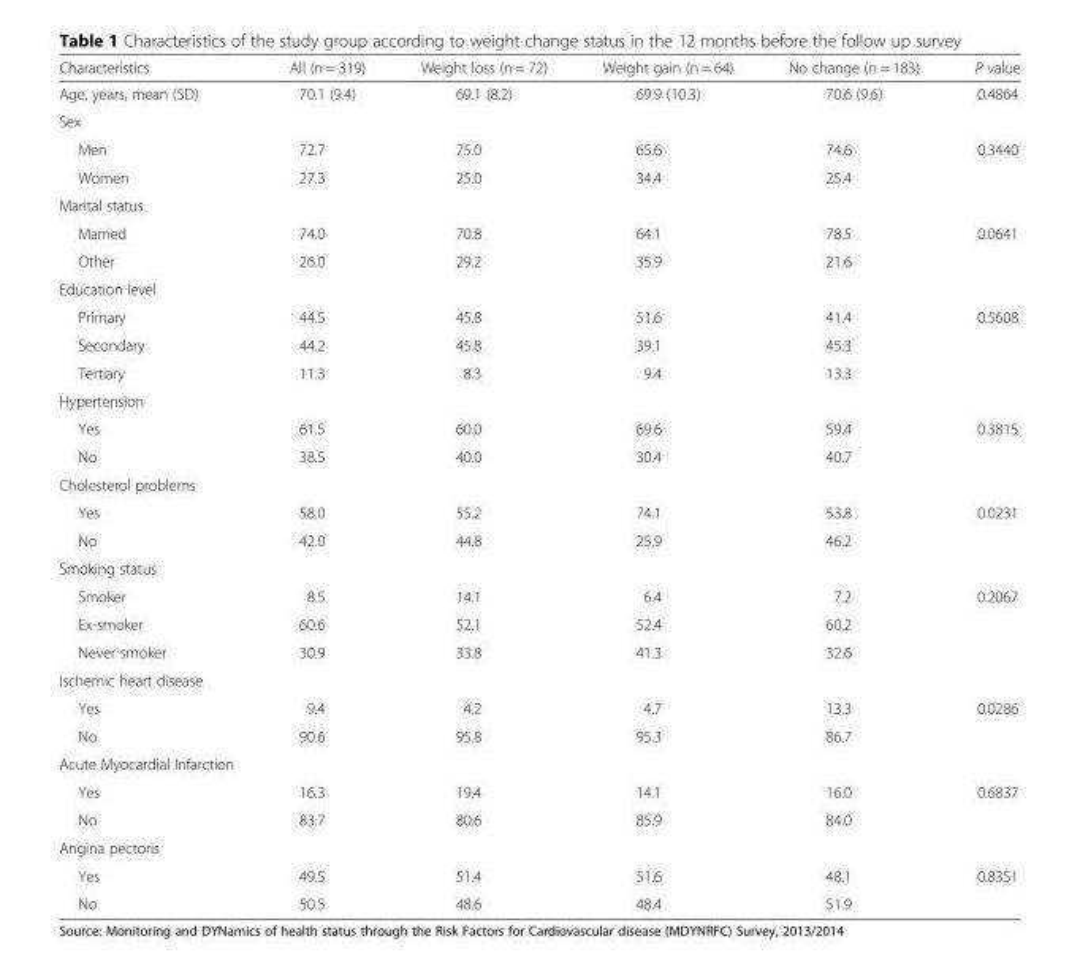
<table><thead><tr><td>Characteristics</td><td>All (n = 319)</td><td>Weight loss (n = 72)</td><td>Weight gain (n = 64)</td><td>No change (n = 183)</td><td>P value</td></tr></thead><tbody><tr><td>Age, years, mean (SD)</td><td>70.1 (9.4)</td><td>69.1 (8.2)</td><td>69.9 (10.3)</td><td>70.6 (9.6)</td><td>0.4864</td></tr><tr><td colspan="6">Sex</td></tr><tr><td>Men</td><td>72.7</td><td>75.0</td><td>65.6</td><td>74.6</td><td>0.3440</td></tr><tr><td>Women</td><td>27.3</td><td>25.0</td><td>34.4</td><td>25.4</td><td></td></tr><tr><td colspan="6">Marital status</td></tr><tr><td>Married</td><td>74.0</td><td>70.8</td><td>64.1</td><td>78.5</td><td>0.0641</td></tr><tr><td>Other</td><td>26.0</td><td>29.2</td><td>35.9</td><td>21.6</td><td></td></tr><tr><td colspan="6">Education level</td></tr><tr><td>Primary</td><td>44.5</td><td>45.8</td><td>51.6</td><td>41.4</td><td>0.5608</td></tr><tr><td>Secondary</td><td>44.2</td><td>45.8</td><td>39.1</td><td>45.3</td><td></td></tr><tr><td>Tertiary</td><td>11.3</td><td>8.3</td><td>9.4</td><td>13.3</td><td></td></tr><tr><td colspan="6">Hypertension</td></tr><tr><td>Yes</td><td>61.5</td><td>60.0</td><td>69.6</td><td>59.4</td><td>0.3815</td></tr><tr><td>No</td><td>38.5</td><td>40.0</td><td>30.4</td><td>40.7</td><td></td></tr><tr><td colspan="6">Cholesterol problems</td></tr><tr><td>Yes</td><td>58.0</td><td>55.2</td><td>74.1</td><td>53.8</td><td>0.0231</td></tr><tr><td>No</td><td>42.0</td><td>44.8</td><td>25.9</td><td>46.2</td><td></td></tr><tr><td colspan="6">Smoking status</td></tr><tr><td>Smoker</td><td>8.5</td><td>14.1</td><td>6.4</td><td>7.2</td><td>0.2067</td></tr><tr><td>Ex-smoker</td><td>60.6</td><td>52.1</td><td>52.4</td><td>60.2</td><td></td></tr><tr><td>Never smoker</td><td>30.9</td><td>33.8</td><td>41.3</td><td>32.6</td><td></td></tr><tr><td colspan="6">Ischemic heart disease</td></tr><tr><td>Yes</td><td>9.4</td><td>4.2</td><td>4.7</td><td>13.3</td><td>0.0286</td></tr><tr><td>No</td><td>90.6</td><td>95.8</td><td>95.3</td><td>86.7</td><td></td></tr><tr><td colspan="6">Acute Myocardial Infarction</td></tr><tr><td>Yes</td><td>16.3</td><td>19.4</td><td>14.1</td><td>16.0</td><td>0.6837</td></tr><tr><td>No</td><td>83.7</td><td>80.6</td><td>85.9</td><td>84.0</td><td></td></tr><tr><td colspan="6">Angina pectoris</td></tr><tr><td>Yes</td><td>49.5</td><td>51.4</td><td>51.6</td><td>48.1</td><td>0.8351</td></tr><tr><td>No</td><td>50.5</td><td>48.6</td><td>48.4</td><td>51.9</td><td></td></tr></tbody></table>